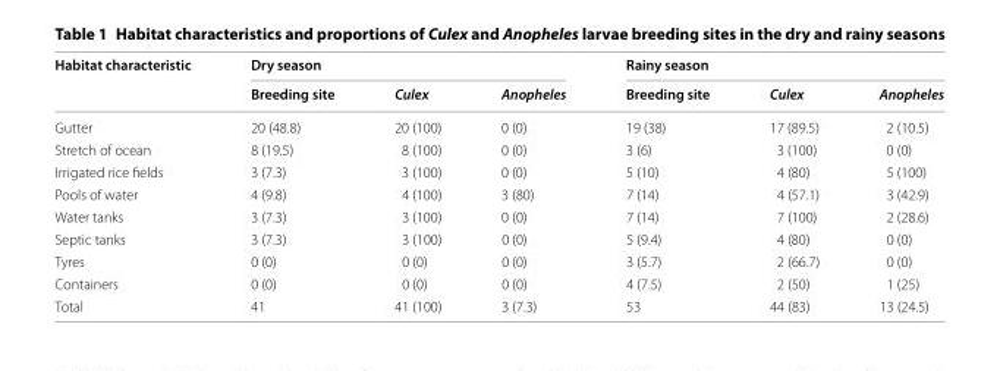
<table><thead><tr><td rowspan="2">Habitat characteristic</td><td colspan="3">Dry season</td><td colspan="3">Rainy season</td></tr><tr><td>Breeding site</td><td>Culex</td><td>Anopheles</td><td>Breeding site</td><td>Culex</td><td>Anopheles</td></tr></thead><tbody><tr><td>Gutter</td><td>20 (48.8)</td><td>20 (100)</td><td>0 (0)</td><td>19 (38)</td><td>17 (89.5)</td><td>2 (10.5)</td></tr><tr><td>Stretch of ocean</td><td>8 (19.5)</td><td>8 (100)</td><td>0 (0)</td><td>3 (6)</td><td>3 (100)</td><td>0 (0)</td></tr><tr><td>Irrigated rice fields</td><td>3 (7.3)</td><td>3 (100)</td><td>0 (0)</td><td>5 (10)</td><td>4 (80)</td><td>5 (100)</td></tr><tr><td>Pools of water</td><td>4 (9.8)</td><td>4 (100)</td><td>3 (80)</td><td>7 (14)</td><td>4 (57.1)</td><td>3 (42.9)</td></tr><tr><td>Water tanks</td><td>3 (7.3)</td><td>3 (100)</td><td>0 (0)</td><td>7 (14)</td><td>7 (100)</td><td>2 (28.6)</td></tr><tr><td>Septic tanks</td><td>3 (7.3)</td><td>3 (100)</td><td>0 (0)</td><td>5 (9.4)</td><td>4 (80)</td><td>0 (0)</td></tr><tr><td>Tyres</td><td>0 (0)</td><td>0 (0)</td><td>0 (0)</td><td>3 (5.7)</td><td>2 (66.7)</td><td>0 (0)</td></tr><tr><td>Containers</td><td>0 (0)</td><td>0 (0)</td><td>0 (0)</td><td>4 (7.5)</td><td>2 (50)</td><td>1 (25)</td></tr><tr><td>Total</td><td>41</td><td>41 (100)</td><td>3 (7.3)</td><td>53</td><td>44 (83)</td><td>13 (24.5)</td></tr></tbody></table>